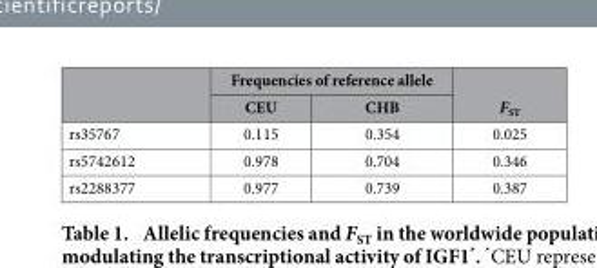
<table><thead><tr><td rowspan="2"></td><td colspan="2">Frequencies of reference allele</td><td rowspan="2">F<sub>ST</sub></td></tr><tr><td>CEU</td><td>CHB</td></tr></thead><tbody><tr><td>rs35767</td><td>0.115</td><td>0.354</td><td>0.025</td></tr><tr><td>rs5742612</td><td>0.978</td><td>0.704</td><td>0.346</td></tr><tr><td>rs2288377</td><td>0.977</td><td>0.739</td><td>0.387</td></tr></tbody></table>